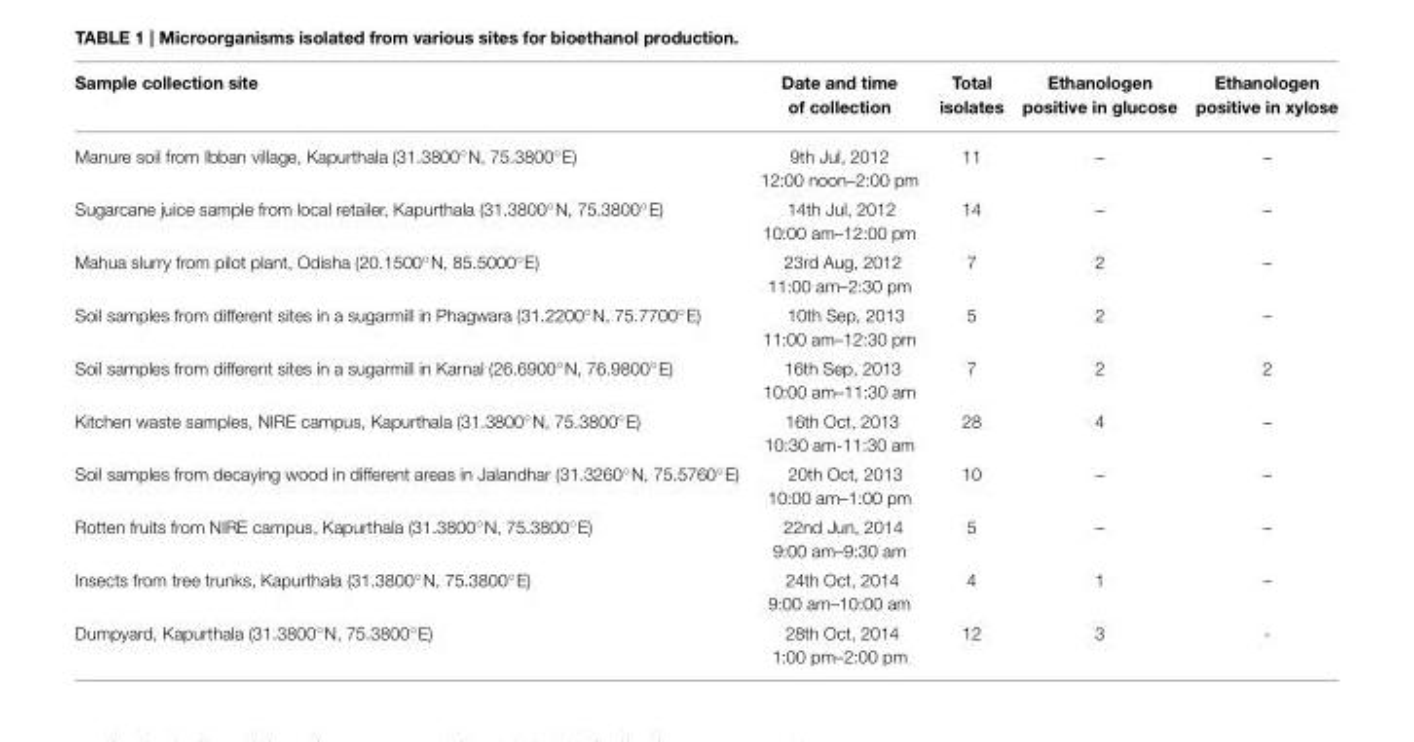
<table><thead><tr><td>Sample collection site</td><td>Date and time of collection</td><td>Total isolates</td><td>Ethanologen positive in glucose</td><td>Ethanologen positive in xylose</td></tr></thead><tbody><tr><td>Manure soil from Ibban village, Kapurthala (31.3800◦N, 75.3800◦E)</td><td>9th Jul, 2012 12:00 noon–2:00 pm</td><td>11</td><td>–</td><td>–</td></tr><tr><td>Sugarcane juice sample from local retailer, Kapurthala (31.3800◦N, 75.3800◦E)</td><td>14th Jul, 2012 10:00 am–12:00 pm</td><td>14</td><td>–</td><td>–</td></tr><tr><td>Mahua slurry from pilot plant, Odisha (20.1500◦N, 85.5000◦E)</td><td>23rd Aug, 2012 11:00 am–2:30 pm</td><td>7</td><td>2</td><td>–</td></tr><tr><td>Soil samples from different sites in a sugarmill in Phagwara (31.2200◦N, 75.7700◦E)</td><td>10th Sep, 2013 11:00 am–12:30 pm</td><td>5</td><td>2</td><td>–</td></tr><tr><td>Soil samples from different sites in a sugarmill in Karnal (26.6900◦N, 76.9800◦E)</td><td>16th Sep, 2013 10:00 am–11:30 am</td><td>7</td><td>2</td><td>2</td></tr><tr><td>Kitchen waste samples, NIRE campus, Kapurthala (31.3800◦N, 75.3800◦E)</td><td>16th Oct, 2013 10:30 am-11:30 am</td><td>28</td><td>4</td><td>–</td></tr><tr><td>Soil samples from decaying wood in different areas in Jalandhar (31.3260◦N, 75.5760◦E)</td><td>20th Oct, 2013 10:00 am–1:00 pm</td><td>10</td><td>–</td><td>–</td></tr><tr><td>Rotten fruits from NIRE campus, Kapurthala (31.3800◦N, 75.3800◦E)</td><td>22nd Jun, 2014 9:00 am–9:30 am</td><td>5</td><td>–</td><td>–</td></tr><tr><td>Insects from tree trunks, Kapurthala (31.3800◦N, 75.3800◦E)</td><td>24th Oct, 2014 9:00 am–10:00 am</td><td>4</td><td>1</td><td>–</td></tr><tr><td>Dumpyard, Kapurthala (31.3800◦N, 75.3800◦E)</td><td>28th Oct, 2014 1:00 pm–2:00 pm</td><td>12</td><td>3</td><td>-</td></tr></tbody></table>